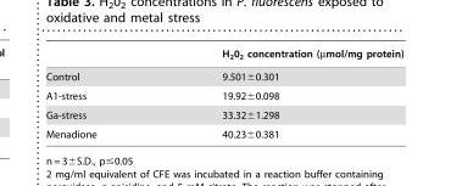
<table><thead><tr><td></td><td>H<sub>2</sub>0<sub>2</sub> concentration (µmol/mg protein)</td></tr></thead><tbody><tr><td>Control</td><td>9.501±0.301</td></tr><tr><td>A1-stress</td><td>19.92±0.098</td></tr><tr><td>Ga-stress</td><td>33.32±1.298</td></tr><tr><td>Menadione</td><td>40.23±0.381</td></tr></tbody></table>